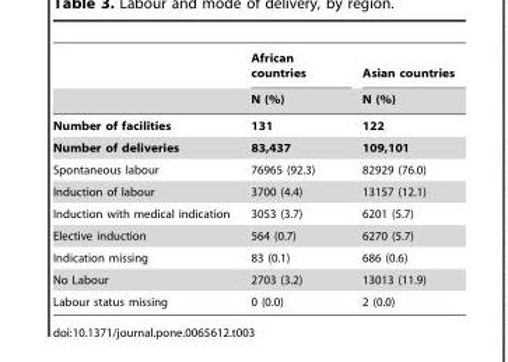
<table><thead><tr><td rowspan="2"></td><td rowspan="2">African countries N (%)</td><td rowspan="2">Asian countries N (%)</td></tr><tr></tr></thead><tbody><tr><td>Number of facilities</td><td>131</td><td>122</td></tr><tr><td>Number of deliveries</td><td>83,437</td><td>109,101</td></tr><tr><td>Spontaneous labour</td><td>76965 (92.3)</td><td>82929 (76.0)</td></tr><tr><td>Induction of labour</td><td>3700 (4.4)</td><td>13157 (12.1)</td></tr><tr><td>Induction with medical indication</td><td>3053 (3.7)</td><td>6201 (5.7)</td></tr><tr><td>Elective induction</td><td>564 (0.7)</td><td>6270 (5.7)</td></tr><tr><td>Indication missing</td><td>83 (0.1)</td><td>686 (0.6)</td></tr><tr><td>No Labour</td><td>2703 (3.2)</td><td>13013 (11.9)</td></tr><tr><td>Labour status missing</td><td>0 (0.0)</td><td>2 (0.0)</td></tr></tbody></table>